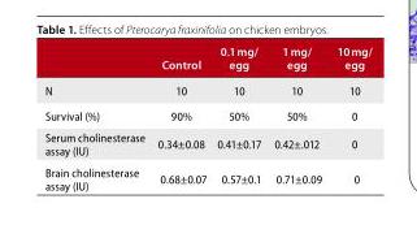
<table><thead><tr><td></td><td>Control</td><td>0.1 mg/ egg</td><td>1 mg/ egg</td><td>10 mg/ egg</td></tr></thead><tbody><tr><td>N</td><td>10</td><td>10</td><td>10</td><td>10</td></tr><tr><td>Survival (%)</td><td>90%</td><td>50%</td><td>50%</td><td>0</td></tr><tr><td>Serum cholinesterase assay (IU)</td><td>0.34±0.08</td><td>0.41±0.17</td><td>0.42±.012</td><td>0</td></tr><tr><td>Brain cholinesterase assay (IU)</td><td>0.68±0.07</td><td>0.57±0.1</td><td>0.71±0.09</td><td>0</td></tr></tbody></table>